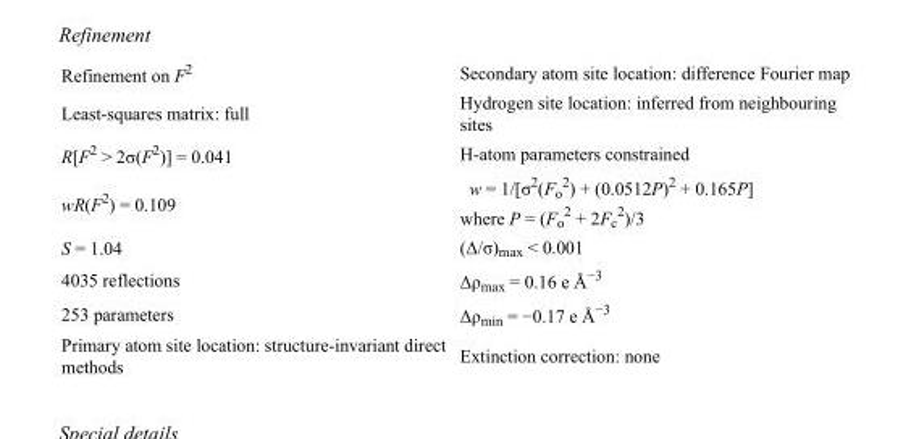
<table><tbody><tr><td>Refinement on F<sup>2</sup></td><td>Secondary atom site location: difference Fourier map</td></tr><tr><td>Least-squares matrix: full</td><td>Hydrogen site location: inferred from neighbouring sites</td></tr><tr><td>R[F<sup>2</sup> &gt; 2σ(F<sup>2</sup>)] = 0.041</td><td>H-atom parameters constrained</td></tr><tr><td>wR(F<sup>2</sup>) = 0.109</td><td>w = 1/[σ<sup>2</sup>(F<sub>o</sub> <sup>2</sup>) + (0.0512P)<sup>2</sup> + 0.165P] where P = (F<sub>o</sub> <sup>2</sup> + 2F<sub>c</sub> <sup>2</sup>)/3</td></tr><tr><td>S = 1.04</td><td>(Δ/σ)<sub>max</sub> &lt; 0.001</td></tr><tr><td>4035 reflections</td><td>Δρ<sub>max</sub> = 0.16 e Å<sup>−3</sup></td></tr><tr><td>253 parameters</td><td>Δρ<sub>min</sub> = −0.17 e Å<sup>−3</sup></td></tr><tr><td>Primary atom site location: structure-invariant direct methods</td><td>Extinction correction: none</td></tr></tbody></table>